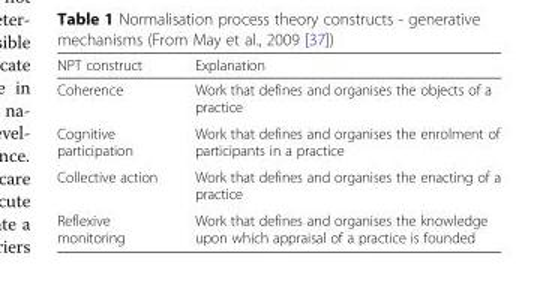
<table><thead><tr><td>NPT construct</td><td>Explanation</td></tr></thead><tbody><tr><td>Coherence</td><td>Work that defines and organises the objects of a practice</td></tr><tr><td>Cognitive participation</td><td>Work that defines and organises the enrolment of participants in a practice</td></tr><tr><td>Collective action</td><td>Work that defines and organises the enacting of a practice</td></tr><tr><td>Reflexive monitoring</td><td>Work that defines and organises the knowledge upon which appraisal of a practice is founded</td></tr></tbody></table>